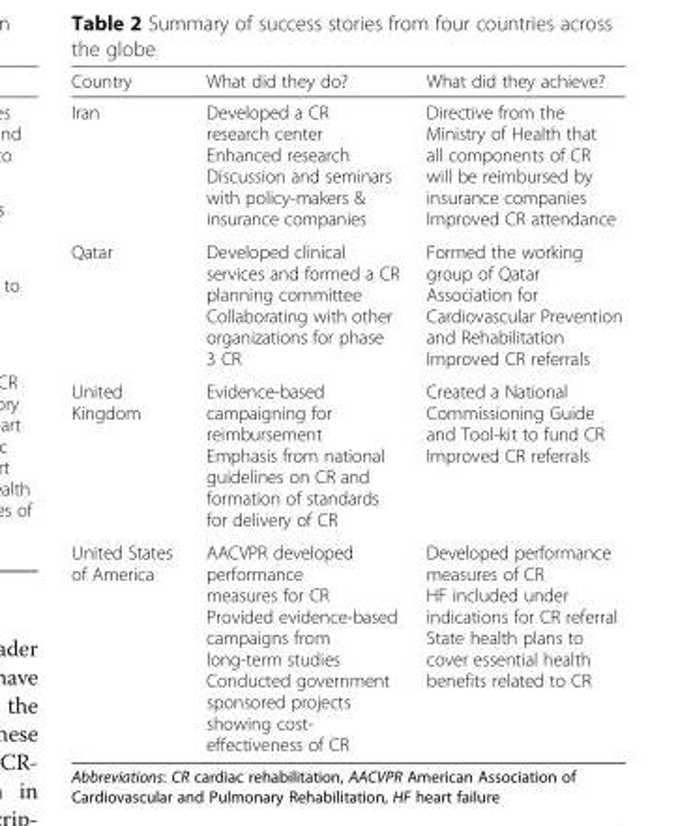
<table><thead><tr><td>Country</td><td>What did they do?</td><td>What did they achieve?</td></tr></thead><tbody><tr><td>Iran</td><td>Developed a CR research center Enhanced research Discussion and seminars with policy-makers &amp; insurance companies</td><td>Directive from the Ministry of Health that all components of CR will be reimbursed by insurance companies Improved CR attendance</td></tr><tr><td>Qatar</td><td>Developed clinical services and formed a CR planning committee Collaborating with other organizations for phase 3 CR</td><td>Formed the working group of Qatar Association for Cardiovascular Prevention and Rehabilitation Improved CR referrals</td></tr><tr><td>United Kingdom</td><td>Evidence-based campaigning for reimbursement Emphasis from national guidelines on CR and formation of standards for delivery of CR</td><td>Created a National Commissioning Guide and Tool-kit to fund CR Improved CR referrals</td></tr><tr><td>United States of America</td><td>AACVPR developed performance measures for CR Provided evidence-based campaigns from long-term studies Conducted government sponsored projects showing cost- effectiveness of CR</td><td>Developed performance measures of CR HF included under indications for CR referral State health plans to cover essential health benefits related to CR</td></tr></tbody></table>